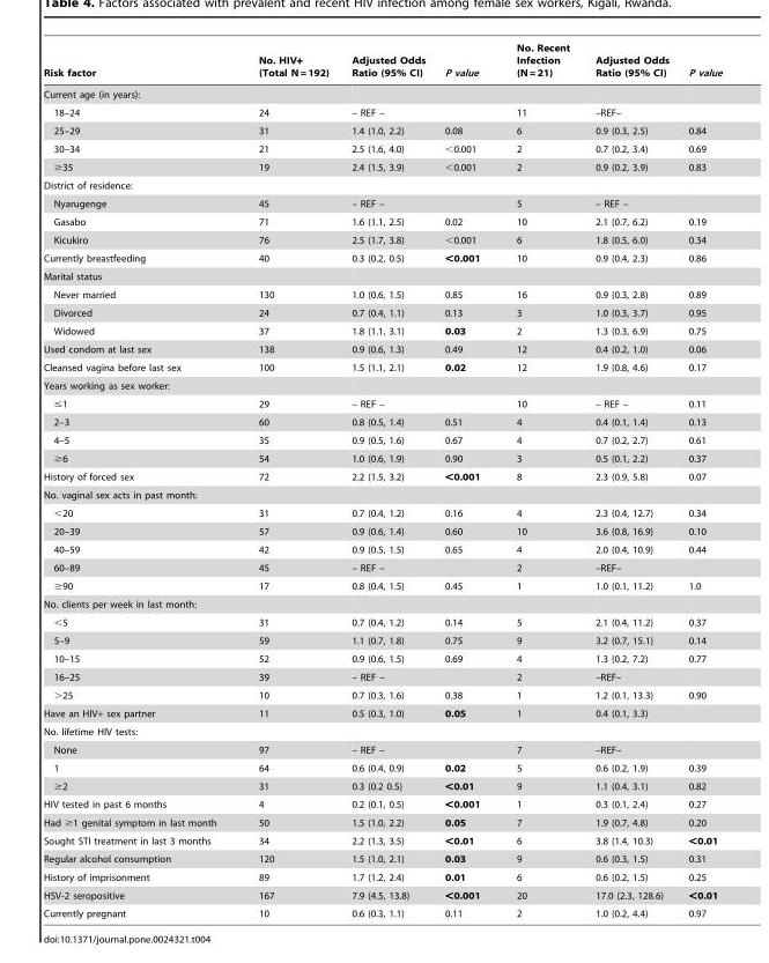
<table><thead><tr><td>Risk factor</td><td>No. HIV+ (Total N = 192)</td><td>Adjusted Odds Ratio (95% CI)</td><td>P value</td><td>No. Recent Infection (N = 21)</td><td>Adjusted Odds Ratio (95% CI)</td><td>P value</td></tr></thead><tbody><tr><td colspan="7">Current age (in years):</td></tr><tr><td>18–24</td><td>24</td><td>– REF –</td><td></td><td>11</td><td>–REF–</td><td></td></tr><tr><td>25–29</td><td>31</td><td>1.4 (1.0, 2.2)</td><td>0.08</td><td>6</td><td>0.9 (0.3, 2.5)</td><td>0.84</td></tr><tr><td>30–34</td><td>21</td><td>2.5 (1.6, 4.0)</td><td>&lt;0.001</td><td>2</td><td>0.7 (0.2, 3.4)</td><td>0.69</td></tr><tr><td>≥35</td><td>19</td><td>2.4 (1.5, 3.9)</td><td>&lt;0.001</td><td>2</td><td>0.9 (0.2, 3.9)</td><td>0.83</td></tr><tr><td colspan="7">District of residence:</td></tr><tr><td>Nyarugenge</td><td>45</td><td>– REF –</td><td></td><td>5</td><td>– REF –</td><td></td></tr><tr><td>Gasabo</td><td>71</td><td>1.6 (1.1, 2.5)</td><td>0.02</td><td>10</td><td>2.1 (0.7, 6.2)</td><td>0.19</td></tr><tr><td>Kicukiro</td><td>76</td><td>2.5 (1.7, 3.8)</td><td>&lt;0.001</td><td>6</td><td>1.8 (0.5, 6.0)</td><td>0.34</td></tr><tr><td>Currently breastfeeding</td><td>40</td><td>0.3 (0.2, 0.5)</td><td>&lt;0.001</td><td>10</td><td>0.9 (0.4, 2.3)</td><td>0.86</td></tr><tr><td colspan="7">Marital status</td></tr><tr><td>Never married</td><td>130</td><td>1.0 (0.6, 1.5)</td><td>0.85</td><td>16</td><td>0.9 (0.3, 2.8)</td><td>0.89</td></tr><tr><td>Divorced</td><td>24</td><td>0.7 (0.4, 1.1)</td><td>0.13</td><td>3</td><td>1.0 (0.3, 3.7)</td><td>0.95</td></tr><tr><td>Widowed</td><td>37</td><td>1.8 (1.1, 3.1)</td><td>0.03</td><td>2</td><td>1.3 (0.3, 6.9)</td><td>0.75</td></tr><tr><td>Used condom at last sex</td><td>138</td><td>0.9 (0.6, 1.3)</td><td>0.49</td><td>12</td><td>0.4 (0.2, 1.0)</td><td>0.06</td></tr><tr><td>Cleansed vagina before last sex</td><td>100</td><td>1.5 (1.1, 2.1)</td><td>0.02</td><td>12</td><td>1.9 (0.8, 4.6)</td><td>0.17</td></tr><tr><td colspan="7">Years working as sex worker:</td></tr><tr><td>≤1</td><td>29</td><td>– REF –</td><td></td><td>10</td><td>– REF –</td><td>0.11</td></tr><tr><td>2–3</td><td>60</td><td>0.8 (0.5, 1.4)</td><td>0.51</td><td>4</td><td>0.4 (0.1, 1.4)</td><td>0.13</td></tr><tr><td>4–5</td><td>35</td><td>0.9 (0.5, 1.6)</td><td>0.67</td><td>4</td><td>0.7 (0.2, 2.7)</td><td>0.61</td></tr><tr><td>≥6</td><td>54</td><td>1.0 (0.6, 1.9)</td><td>0.90</td><td>3</td><td>0.5 (0.1, 2.2)</td><td>0.37</td></tr><tr><td>History of forced sex</td><td>72</td><td>2.2 (1.5, 3.2)</td><td>&lt;0.001</td><td>8</td><td>2.3 (0.9, 5.8)</td><td>0.07</td></tr><tr><td colspan="7">No. vaginal sex acts in past month:</td></tr><tr><td>&lt;20</td><td>31</td><td>0.7 (0.4, 1.2)</td><td>0.16</td><td>4</td><td>2.3 (0.4, 12.7)</td><td>0.34</td></tr><tr><td>20–39</td><td>57</td><td>0.9 (0.6, 1.4)</td><td>0.60</td><td>10</td><td>3.6 (0.8, 16.9)</td><td>0.10</td></tr><tr><td>40–59</td><td>42</td><td>0.9 (0.5, 1.5)</td><td>0.65</td><td>4</td><td>2.0 (0.4, 10.9)</td><td>0.44</td></tr><tr><td>60–89</td><td>45</td><td>– REF –</td><td></td><td>2</td><td>–REF–</td><td></td></tr><tr><td>≥90</td><td>17</td><td>0.8 (0.4, 1.5)</td><td>0.45</td><td>1</td><td>1.0 (0.1, 11.2)</td><td>1.0</td></tr><tr><td colspan="7">No. clients per week in last month:</td></tr><tr><td>&lt;5</td><td>31</td><td>0.7 (0.4, 1.2)</td><td>0.14</td><td>5</td><td>2.1 (0.4, 11.2)</td><td>0.37</td></tr><tr><td>5–9</td><td>59</td><td>1.1 (0.7, 1.8)</td><td>0.75</td><td>9</td><td>3.2 (0.7, 15.1)</td><td>0.14</td></tr><tr><td>10–15</td><td>52</td><td>0.9 (0.6, 1.5)</td><td>0.69</td><td>4</td><td>1.3 (0.2, 7.2)</td><td>0.77</td></tr><tr><td>16–25</td><td>39</td><td>– REF –</td><td></td><td>2</td><td>–REF–</td><td></td></tr><tr><td>&gt;25</td><td>10</td><td>0.7 (0.3, 1.6)</td><td>0.38</td><td>1</td><td>1.2 (0.1, 13.3)</td><td>0.90</td></tr><tr><td>Have an HIV+ sex partner</td><td>11</td><td>0.5 (0.3, 1.0)</td><td>0.05</td><td>1</td><td>0.4 (0.1, 3.3)</td><td></td></tr><tr><td colspan="7">No. lifetime HIV tests:</td></tr><tr><td>None</td><td>97</td><td>– REF –</td><td></td><td>7</td><td>–REF–</td><td></td></tr><tr><td>1</td><td>64</td><td>0.6 (0.4, 0.9)</td><td>0.02</td><td>5</td><td>0.6 (0.2, 1.9)</td><td>0.39</td></tr><tr><td>≥2</td><td>31</td><td>0.3 (0.2 0.5)</td><td>&lt;0.01</td><td>9</td><td>1.1 (0.4, 3.1)</td><td>0.82</td></tr><tr><td>HIV tested in past 6 months</td><td>4</td><td>0.2 (0.1, 0.5)</td><td>&lt;0.001</td><td>1</td><td>0.3 (0.1, 2.4)</td><td>0.27</td></tr><tr><td>Had ≥1 genital symptom in last month</td><td>50</td><td>1.5 (1.0, 2.2)</td><td>0.05</td><td>7</td><td>1.9 (0.7, 4.8)</td><td>0.20</td></tr><tr><td>Sought STI treatment in last 3 months</td><td>34</td><td>2.2 (1.3, 3.5)</td><td>&lt;0.01</td><td>6</td><td>3.8 (1.4, 10.3)</td><td>&lt;0.01</td></tr><tr><td>Regular alcohol consumption</td><td>120</td><td>1.5 (1.0, 2.1)</td><td>0.03</td><td>9</td><td>0.6 (0.3, 1.5)</td><td>0.31</td></tr><tr><td>History of imprisonment</td><td>89</td><td>1.7 (1.2, 2.4)</td><td>0.01</td><td>6</td><td>0.6 (0.2, 1.5)</td><td>0.25</td></tr><tr><td>HSV-2 seropositive</td><td>167</td><td>7.9 (4.5, 13.8)</td><td>&lt;0.001</td><td>20</td><td>17.0 (2.3, 128.6)</td><td>&lt;0.01</td></tr><tr><td>Currently pregnant</td><td>10</td><td>0.6 (0.3, 1.1)</td><td>0.11</td><td>2</td><td>1.0 (0.2, 4.4)</td><td>0.97</td></tr></tbody></table>